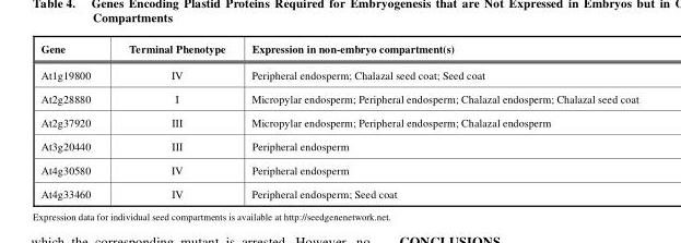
<table><thead><tr><td>Gene</td><td>Terminal Phenotype</td><td>Expression in non-embryo compartment(s)</td></tr></thead><tbody><tr><td>At1g19800</td><td>IV</td><td>Peripheral endosperm; Chalazal seed coat; Seed coat</td></tr><tr><td>At2g28880</td><td>I</td><td>Micropylar endosperm; Peripheral endosperm; Chalazal endosperm; Chalazal seed coat</td></tr><tr><td>At2g37920</td><td>III</td><td>Micropylar endosperm; Peripheral endosperm; Chalazal endosperm</td></tr><tr><td>At3g20440</td><td>III</td><td>Peripheral endosperm</td></tr><tr><td>At4g30580</td><td>IV</td><td>Peripheral endosperm</td></tr><tr><td>At4g33460</td><td>IV</td><td>Peripheral endosperm; Seed coat</td></tr></tbody></table>